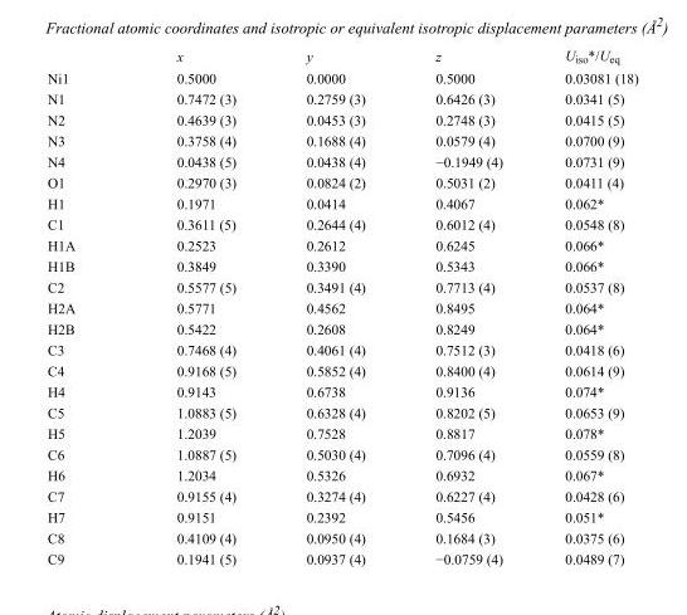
<table><thead><tr><td></td><td>x</td><td>y</td><td>z</td><td>U<sub>iso</sub>*/U<sub>eq</sub></td></tr></thead><tbody><tr><td>Ni1</td><td>0.5000</td><td>0.0000</td><td>0.5000</td><td>0.03081 (18)</td></tr><tr><td>N1</td><td>0.7472 (3)</td><td>0.2759 (3)</td><td>0.6426 (3)</td><td>0.0341 (5)</td></tr><tr><td>N2</td><td>0.4639 (3)</td><td>0.0453 (3)</td><td>0.2748 (3)</td><td>0.0415 (5)</td></tr><tr><td>N3</td><td>0.3758 (4)</td><td>0.1688 (4)</td><td>0.0579 (4)</td><td>0.0700 (9)</td></tr><tr><td>N4</td><td>0.0438 (5)</td><td>0.0438 (4)</td><td>−0.1949 (4)</td><td>0.0731 (9)</td></tr><tr><td>O1</td><td>0.2970 (3)</td><td>0.0824 (2)</td><td>0.5031 (2)</td><td>0.0411 (4)</td></tr><tr><td>H1</td><td>0.1971</td><td>0.0414</td><td>0.4067</td><td>0.062*</td></tr><tr><td>C1</td><td>0.3611 (5)</td><td>0.2644 (4)</td><td>0.6012 (4)</td><td>0.0548 (8)</td></tr><tr><td>H1A</td><td>0.2523</td><td>0.2612</td><td>0.6245</td><td>0.066*</td></tr><tr><td>H1B</td><td>0.3849</td><td>0.3390</td><td>0.5343</td><td>0.066*</td></tr><tr><td>C2</td><td>0.5577 (5)</td><td>0.3491 (4)</td><td>0.7713 (4)</td><td>0.0537 (8)</td></tr><tr><td>H2A</td><td>0.5771</td><td>0.4562</td><td>0.8495</td><td>0.064*</td></tr><tr><td>H2B</td><td>0.5422</td><td>0.2608</td><td>0.8249</td><td>0.064*</td></tr><tr><td>C3</td><td>0.7468 (4)</td><td>0.4061 (4)</td><td>0.7512 (3)</td><td>0.0418 (6)</td></tr><tr><td>C4</td><td>0.9168 (5)</td><td>0.5852 (4)</td><td>0.8400 (4)</td><td>0.0614 (9)</td></tr><tr><td>H4</td><td>0.9143</td><td>0.6738</td><td>0.9136</td><td>0.074*</td></tr><tr><td>C5</td><td>1.0883 (5)</td><td>0.6328 (4)</td><td>0.8202 (5)</td><td>0.0653 (9)</td></tr><tr><td>H5</td><td>1.2039</td><td>0.7528</td><td>0.8817</td><td>0.078*</td></tr><tr><td>C6</td><td>1.0887 (5)</td><td>0.5030 (4)</td><td>0.7096 (4)</td><td>0.0559 (8)</td></tr><tr><td>H6</td><td>1.2034</td><td>0.5326</td><td>0.6932</td><td>0.067*</td></tr><tr><td>C7</td><td>0.9155 (4)</td><td>0.3274 (4)</td><td>0.6227 (4)</td><td>0.0428 (6)</td></tr><tr><td>H7</td><td>0.9151</td><td>0.2392</td><td>0.5456</td><td>0.051*</td></tr><tr><td>C8</td><td>0.4109 (4)</td><td>0.0950 (4)</td><td>0.1684 (3)</td><td>0.0375 (6)</td></tr><tr><td>C9</td><td>0.1941 (5)</td><td>0.0937 (4)</td><td>−0.0759 (4)</td><td>0.0489 (7)</td></tr></tbody></table>